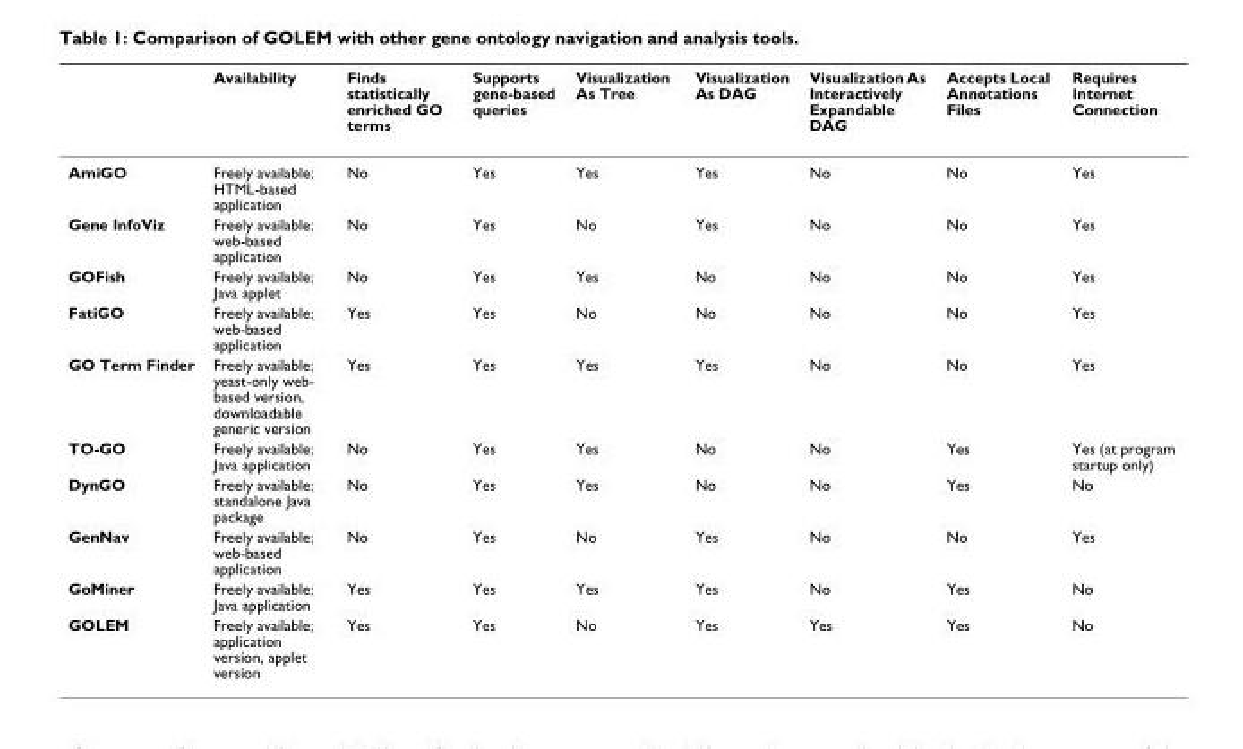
<table><thead><tr><td></td><td>Availability</td><td>Finds statistically enriched GO terms</td><td>Supports gene-based queries</td><td>Visualization As Tree</td><td>Visualization As DAG</td><td>Visualization As Interactively Expandable DAG</td><td>Accepts Local Annotations Files</td><td>Requires Internet Connection</td></tr></thead><tbody><tr><td>AmiGO</td><td>Freely available; HTML-based application</td><td>No</td><td>Yes</td><td>Yes</td><td>Yes</td><td>No</td><td>No</td><td>Yes</td></tr><tr><td>Gene InfoViz</td><td>Freely available; web-based application</td><td>No</td><td>Yes</td><td>No</td><td>Yes</td><td>No</td><td>No</td><td>Yes</td></tr><tr><td>GOFish</td><td>Freely available; Java applet</td><td>No</td><td>Yes</td><td>Yes</td><td>No</td><td>No</td><td>No</td><td>Yes</td></tr><tr><td>FatiGO</td><td>Freely available; web-based application</td><td>Yes</td><td>Yes</td><td>No</td><td>No</td><td>No</td><td>No</td><td>Yes</td></tr><tr><td>GO Term Finder</td><td>Freely available; yeast-only web- based version, downloadable generic version</td><td>Yes</td><td>Yes</td><td>Yes</td><td>Yes</td><td>No</td><td>No</td><td>Yes</td></tr><tr><td>TO-GO</td><td>Freely available; Java application</td><td>No</td><td>Yes</td><td>Yes</td><td>No</td><td>No</td><td>Yes</td><td>Yes (at program startup only)</td></tr><tr><td>DynGO</td><td>Freely available; standalone Java package</td><td>No</td><td>Yes</td><td>Yes</td><td>No</td><td>No</td><td>Yes</td><td>No</td></tr><tr><td>GenNav</td><td>Freely available; web-based application</td><td>No</td><td>Yes</td><td>No</td><td>Yes</td><td>No</td><td>No</td><td>Yes</td></tr><tr><td>GoMiner</td><td>Freely available; Java application</td><td>Yes</td><td>Yes</td><td>Yes</td><td>Yes</td><td>No</td><td>Yes</td><td>No</td></tr><tr><td>GOLEM</td><td>Freely available; application version, applet version</td><td>Yes</td><td>Yes</td><td>No</td><td>Yes</td><td>Yes</td><td>Yes</td><td>No</td></tr></tbody></table>